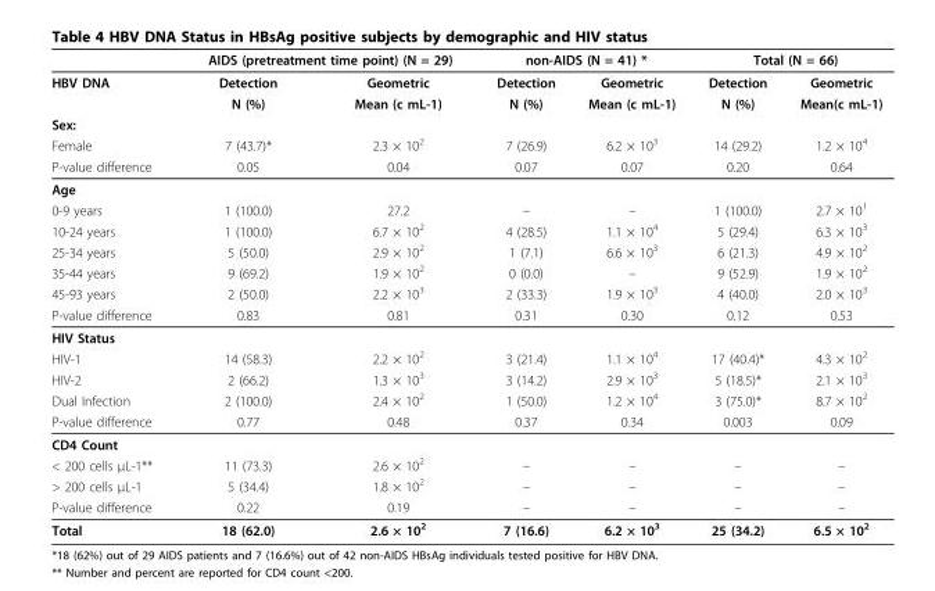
<table><thead><tr><td rowspan="2">HBV DNA</td><td colspan="2">AIDS (pretreatment time point) (N = 29)</td><td colspan="2">non-AIDS (N = 41) *</td><td colspan="2">Total (N = 66)</td></tr><tr><td>Detection</td><td>Geometric</td><td>Detection</td><td>Geometric</td><td>Detection</td><td>Geometric</td></tr></thead><tbody><tr><td></td><td>N (%)</td><td>Mean (c mL-1)</td><td>N (%)</td><td>Mean (c mL-1)</td><td>N (%)</td><td>Mean(c mL-1)</td></tr><tr><td colspan="7">Sex:</td></tr><tr><td>Female</td><td>7 (43.7)*</td><td>2.3 × 10<sup>2</sup></td><td>7 (26.9)</td><td>6.2 × 103</td><td>14 (29.2)</td><td>1.2 × 10<sup>4</sup></td></tr><tr><td>P-value difference</td><td>0.05</td><td>0.04</td><td>0.07</td><td>0.07</td><td>0.20</td><td>0.64</td></tr><tr><td colspan="7">Age</td></tr><tr><td>0-9 years</td><td>1 (100.0)</td><td>27.2</td><td>–</td><td>–</td><td>1 (100.0)</td><td>2.7 × 10<sup>1</sup></td></tr><tr><td>10-24 years</td><td>1 (100.0)</td><td>6.7 × 10<sup>2</sup></td><td>4 (28.5)</td><td>1.1 × 10<sup>4</sup></td><td>5 (29.4)</td><td>6.3 × 10<sup>3</sup></td></tr><tr><td>25-34 years</td><td>5 (50.0)</td><td>2.9 × 10<sup>2</sup></td><td>1 (7.1)</td><td>6.6 × 10<sup>3</sup></td><td>6 (21.3)</td><td>4.9 × 10<sup>2</sup></td></tr><tr><td>35-44 years</td><td>9 (69.2)</td><td>1.9 × 10<sup>2</sup></td><td>0 (0.0)</td><td>–</td><td>9 (52.9)</td><td>1.9 × 10<sup>2</sup></td></tr><tr><td>45-93 years</td><td>2 (50.0)</td><td>2.2 × 10<sup>3</sup></td><td>2 (33.3)</td><td>1.9 × 10<sup>3</sup></td><td>4 (40.0)</td><td>2.0 × 10<sup>3</sup></td></tr><tr><td>P-value difference</td><td>0.83</td><td>0.81</td><td>0.31</td><td>0.30</td><td>0.12</td><td>0.53</td></tr><tr><td colspan="7">HIV Status</td></tr><tr><td>HIV-1</td><td>14 (58.3)</td><td>2.2 × 10<sup>2</sup></td><td>3 (21.4)</td><td>1.1 × 10<sup>4</sup></td><td>17 (40.4)*</td><td>4.3 × 10<sup>2</sup></td></tr><tr><td>HIV-2</td><td>2 (66.2)</td><td>1.3 × 10<sup>3</sup></td><td>3 (14.2)</td><td>2.9 × 10<sup>3</sup></td><td>5 (18.5)*</td><td>2.1 × 10<sup>3</sup></td></tr><tr><td>Dual Infection</td><td>2 (100.0)</td><td>2.4 × 10<sup>2</sup></td><td>1 (50.0)</td><td>1.2 × 10<sup>4</sup></td><td>3 (75.0)*</td><td>8.7 × 10<sup>2</sup></td></tr><tr><td>P-value difference</td><td>0.77</td><td>0.48</td><td>0.37</td><td>0.34</td><td>0.003</td><td>0.09</td></tr><tr><td colspan="7">CD4 Count</td></tr><tr><td>&lt; 200 cells μL-1**</td><td>11 (73.3)</td><td>2.6 × 102</td><td>–</td><td>–</td><td>–</td><td>–</td></tr><tr><td>&gt; 200 cells μL-1</td><td>5 (34.4)</td><td>1.8 × 102</td><td>–</td><td>–</td><td>–</td><td>–</td></tr><tr><td>P-value difference</td><td>0.22</td><td>0.19</td><td>–</td><td>–</td><td>–</td><td>–</td></tr><tr><td>Total</td><td>18 (62.0)</td><td>2.6 × 102</td><td>7 (16.6)</td><td>6.2 × 103</td><td>25 (34.2)</td><td>6.5 × 102</td></tr></tbody></table>